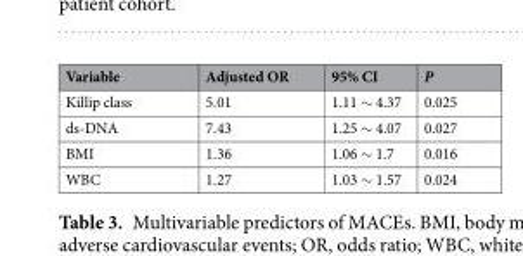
<table><thead><tr><td>Variable</td><td>Adjusted OR</td><td>95% CI</td><td>P</td></tr></thead><tbody><tr><td>Killip class</td><td>5.01</td><td>1.11 ∼ 4.37</td><td>0.025</td></tr><tr><td>ds-DNA</td><td>7.43</td><td>1.25 ∼ 4.07</td><td>0.027</td></tr><tr><td>BMI</td><td>1.36</td><td>1.06 ∼ 1.7</td><td>0.016</td></tr><tr><td>WBC</td><td>1.27</td><td>1.03 ∼ 1.57</td><td>0.024</td></tr></tbody></table>